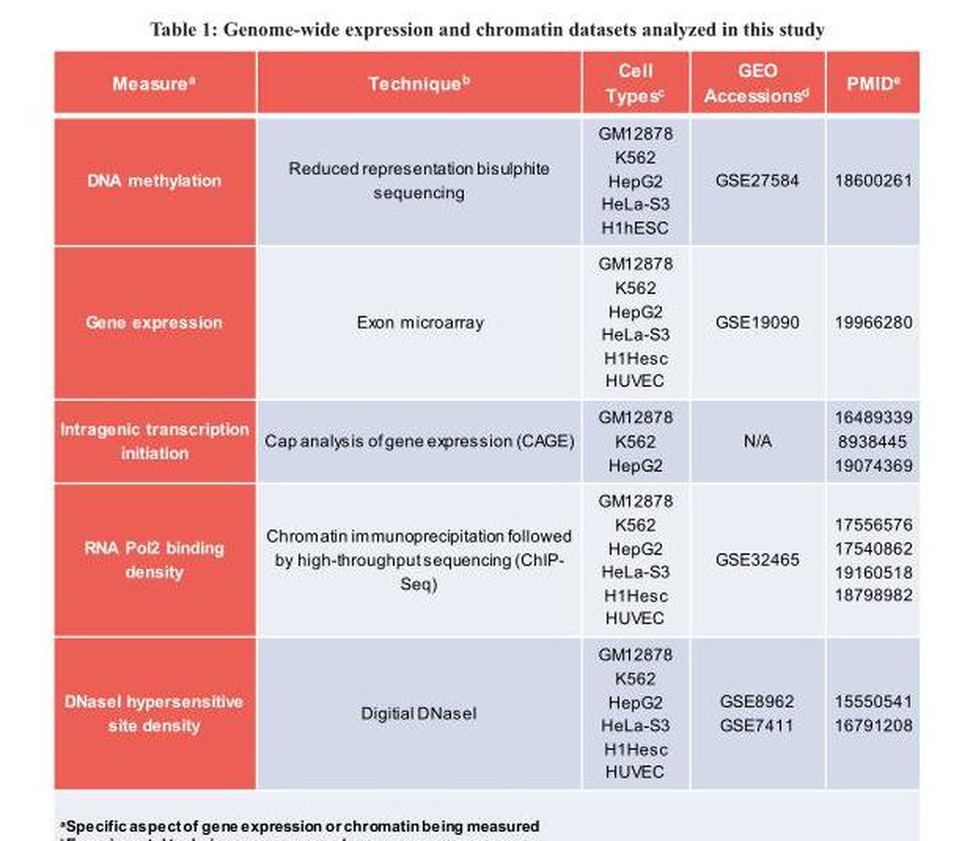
<table><thead><tr><td>Measure<sup>a</sup></td><td>Technique<sup>b</sup></td><td>Cell Types<sup>c</sup></td><td>GEO Accessions<sup>d</sup></td><td>PMID<sup>e</sup></td></tr></thead><tbody><tr><td>DNA methylation</td><td>Reduced representation bisulphite sequencing</td><td>GM12878 K562 HepG2 HeLa-S3 H1hESC</td><td>GSE27584</td><td>18600261</td></tr><tr><td>Gene expression</td><td>Exon microarray</td><td>GM12878 K562 HepG2 HeLa-S3 H1Hesc HUVEC</td><td>GSE19090</td><td>19966280</td></tr><tr><td>Intragenic transcription initiation</td><td>Cap analysis of gene expression (CAGE)</td><td>GM12878 K562 HepG2</td><td>N/A</td><td>16489339 8938445 19074369</td></tr><tr><td>RNA Pol2 binding density</td><td>Chromatin immunoprecipitation followed by high-throughput sequencing (ChIP- Seq)</td><td>GM12878 K562 HepG2 HeLa-S3 H1Hesc HUVEC</td><td>GSE32465</td><td>17556576 17540862 19160518 18798982</td></tr><tr><td>DNaseI hypersensitive site density</td><td>Digitial DNaseI</td><td>GM12878 K562 HepG2 HeLa-S3 H1Hesc HUVEC</td><td>GSE8962 GSE7411</td><td>15550541 16791208</td></tr></tbody></table>